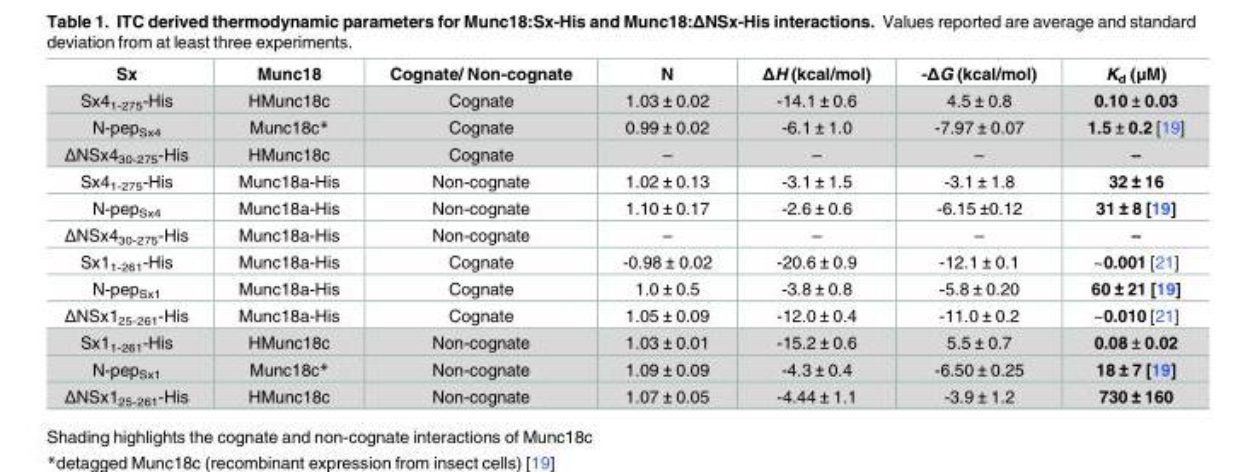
<table><thead><tr><td>Sx</td><td>Munc18</td><td>Cognate/ Non-cognate</td><td>N</td><td>ΔH (kcal/mol)</td><td>-ΔG (kcal/mol)</td><td>K<sub>d</sub> (μM)</td></tr></thead><tbody><tr><td>Sx4<sub>1-275</sub>-His</td><td>HMunc18c</td><td>Cognate</td><td>1.03 ± 0.02</td><td>-14.1 ± 0.6</td><td>4.5 ± 0.8</td><td>0.10 ± 0.03</td></tr><tr><td>N-pep<sub>Sx4</sub></td><td>Munc18c*</td><td>Cognate</td><td>0.99 ± 0.02</td><td>-6.1 ± 1.0</td><td>-7.97 ± 0.07</td><td>1.5 ± 0.2 [19]</td></tr><tr><td>ΔNSx4<sub>30-275</sub>-His</td><td>HMunc18c</td><td>Cognate</td><td>–</td><td>–</td><td>–</td><td>–</td></tr><tr><td>Sx4<sub>1-275</sub>-His</td><td>Munc18a-His</td><td>Non-cognate</td><td>1.02 ± 0.13</td><td>-3.1 ± 1.5</td><td>-3.1 ± 1.8</td><td>32 ± 16</td></tr><tr><td>N-pep<sub>Sx4</sub></td><td>Munc18a-His</td><td>Non-cognate</td><td>1.10 ± 0.17</td><td>-2.6 ± 0.6</td><td>-6.15 ±0.12</td><td>31 ± 8 [19]</td></tr><tr><td>ΔNSx4<sub>30-275</sub>-His</td><td>Munc18a-His</td><td>Non-cognate</td><td>–</td><td>–</td><td>–</td><td>–</td></tr><tr><td>Sx1<sub>1-261</sub>-His</td><td>Munc18a-His</td><td>Cognate</td><td>-0.98 ± 0.02</td><td>-20.6 ± 0.9</td><td>-12.1 ± 0.1</td><td>~0.001 [21]</td></tr><tr><td>N-pep<sub>Sx1</sub></td><td>Munc18a-His</td><td>Cognate</td><td>1.0 ± 0.5</td><td>-3.8 ± 0.8</td><td>-5.8 ± 0.20</td><td>60 ± 21 [19]</td></tr><tr><td>ΔNSx1<sub>25-261</sub>-His</td><td>Munc18a-His</td><td>Cognate</td><td>1.05 ± 0.09</td><td>-12.0 ± 0.4</td><td>-11.0 ± 0.2</td><td>~0.010 [21]</td></tr><tr><td>Sx1<sub>1-261</sub>-His</td><td>HMunc18c</td><td>Non-cognate</td><td>1.03 ± 0.01</td><td>-15.2 ± 0.6</td><td>5.5 ± 0.7</td><td>0.08 ± 0.02</td></tr><tr><td>N-pep<sub>Sx1</sub></td><td>Munc18c*</td><td>Non-cognate</td><td>1.09 ± 0.09</td><td>-4.3 ± 0.4</td><td>-6.50 ± 0.25</td><td>18 ± 7 [19]</td></tr><tr><td>ΔNSx1<sub>25-261</sub>-His</td><td>HMunc18c</td><td>Non-cognate</td><td>1.07 ± 0.05</td><td>-4.44 ± 1.1</td><td>-3.9 ± 1.2</td><td>730 ± 160</td></tr></tbody></table>